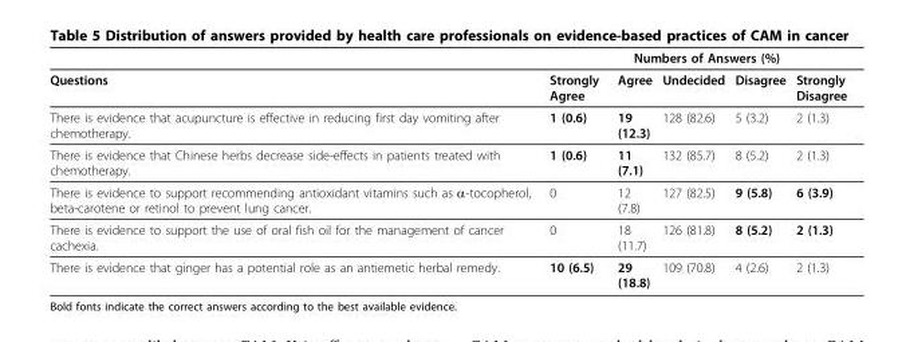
<table><thead><tr><td rowspan="2">Questions</td><td colspan="5">Numbers of Answers (%)</td></tr><tr><td>Strongly Agree</td><td>Agree</td><td>Undecided</td><td>Disagree</td><td>Strongly Disagree</td></tr></thead><tbody><tr><td>There is evidence that acupuncture is effective in reducing first day vomiting after chemotherapy.</td><td>1 (0.6)</td><td>19 (12.3)</td><td>128 (82.6)</td><td>5 (3.2)</td><td>2 (1.3)</td></tr><tr><td>There is evidence that Chinese herbs decrease side-effects in patients treated with chemotherapy.</td><td>1 (0.6)</td><td>11 (7.1)</td><td>132 (85.7)</td><td>8 (5.2)</td><td>2 (1.3)</td></tr><tr><td>There is evidence to support recommending antioxidant vitamins such as α-tocopherol, beta-carotene or retinol to prevent lung cancer.</td><td>0</td><td>12 (7.8)</td><td>127 (82.5)</td><td>9 (5.8)</td><td>6 (3.9)</td></tr><tr><td>There is evidence to support the use of oral fish oil for the management of cancer cachexia.</td><td>0</td><td>18 (11.7)</td><td>126 (81.8)</td><td>8 (5.2)</td><td>2 (1.3)</td></tr><tr><td>There is evidence that ginger has a potential role as an antiemetic herbal remedy.</td><td>10 (6.5)</td><td>29 (18.8)</td><td>109 (70.8)</td><td>4 (2.6)</td><td>2 (1.3)</td></tr></tbody></table>